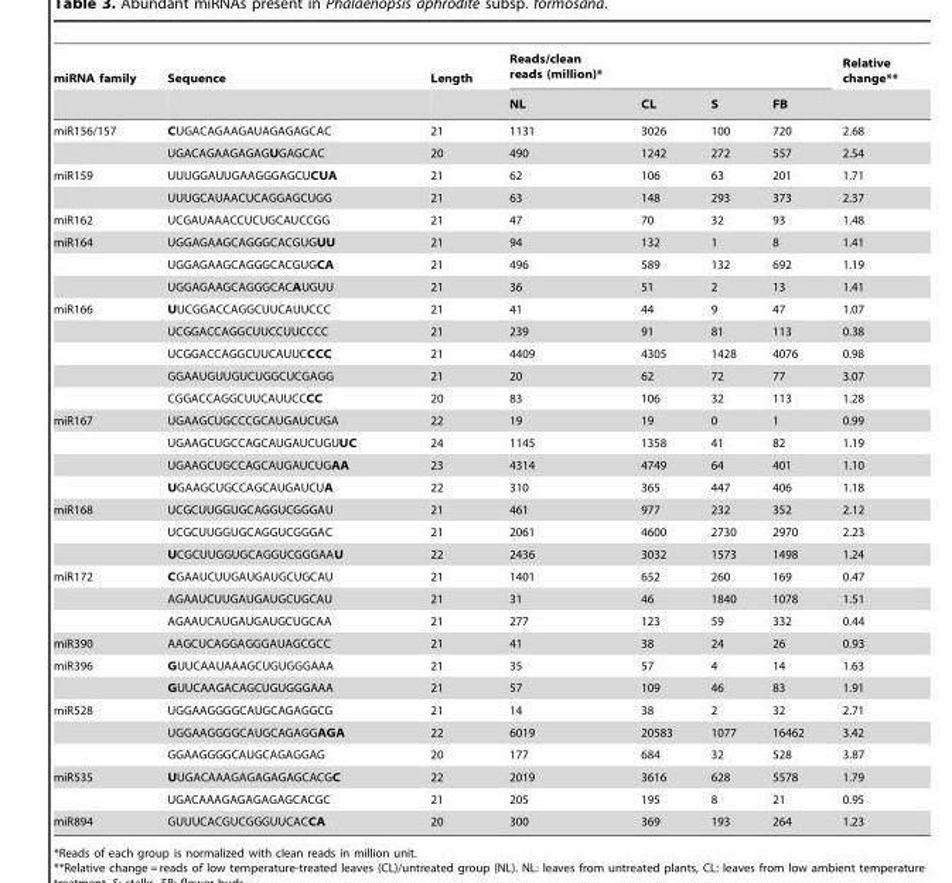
<table><thead><tr><td rowspan="2">miRNA family</td><td rowspan="2">Sequence</td><td rowspan="2">Length</td><td colspan="4">Reads/clean reads (million)*</td><td rowspan="2">Relative change**</td></tr><tr><td>NL</td><td>CL</td><td>S</td><td>FB</td></tr></thead><tbody><tr><td rowspan="2">miR156/157</td><td>CUGACAGAAGAUAGAGAGCAC</td><td>21</td><td>1131</td><td>3026</td><td>100</td><td>720</td><td>2.68</td></tr><tr><td>UGACAGAAGAGAGUGAGCAC</td><td>20</td><td>490</td><td>1242</td><td>272</td><td>557</td><td>2.54</td></tr><tr><td rowspan="2">miR159</td><td>UUUGGAUUGAAGGGAGCUCUA</td><td>21</td><td>62</td><td>106</td><td>63</td><td>201</td><td>1.71</td></tr><tr><td>UUUGCAUAACUCAGGAGCUGG</td><td>21</td><td>63</td><td>148</td><td>293</td><td>373</td><td>2.37</td></tr><tr><td>miR162</td><td>UCGAUAAACCUCUGCAUCCGG</td><td>21</td><td>47</td><td>70</td><td>32</td><td>93</td><td>1.48</td></tr><tr><td rowspan="3">miR164</td><td>UGGAGAAGCAGGGCACGUGUU</td><td>21</td><td>94</td><td>132</td><td>1</td><td>8</td><td>1.41</td></tr><tr><td>UGGAGAAGCAGGGCACGUGCA</td><td>21</td><td>496</td><td>589</td><td>132</td><td>692</td><td>1.19</td></tr><tr><td>UGGAGAAGCAGGGCACAUGUU</td><td>21</td><td>36</td><td>51</td><td>2</td><td>13</td><td>1.41</td></tr><tr><td rowspan="5">miR166</td><td>UUCGGACCAGGCUUCAUUCCC</td><td>21</td><td>41</td><td>44</td><td>9</td><td>47</td><td>1.07</td></tr><tr><td>UCGGACCAGGCUUCCUUCCCC</td><td>21</td><td>239</td><td>91</td><td>81</td><td>113</td><td>0.38</td></tr><tr><td>UCGGACCAGGCUUCAUUCCCC</td><td>21</td><td>4409</td><td>4305</td><td>1428</td><td>4076</td><td>0.98</td></tr><tr><td>GGAAUGUUGUCUGGCUCGAGG</td><td>21</td><td>20</td><td>62</td><td>72</td><td>77</td><td>3.07</td></tr><tr><td>CGGACCAGGCUUCAUUCCCC</td><td>20</td><td>83</td><td>106</td><td>32</td><td>113</td><td>1.28</td></tr><tr><td rowspan="4">miR167</td><td>UGAAGCUGCCCGCAUGAUCUGA</td><td>22</td><td>19</td><td>19</td><td>0</td><td>1</td><td>0.99</td></tr><tr><td>UGAAGCUGCCAGCAUGAUCUGUUC</td><td>24</td><td>1145</td><td>1358</td><td>41</td><td>82</td><td>1.19</td></tr><tr><td>UGAAGCUGCCAGCAUGAUCUGAA</td><td>23</td><td>4314</td><td>4749</td><td>64</td><td>401</td><td>1.10</td></tr><tr><td>UGAAGCUGCCAGCAUGAUCUA</td><td>22</td><td>310</td><td>365</td><td>447</td><td>406</td><td>1.18</td></tr><tr><td rowspan="3">miR168</td><td>UCGCUUGGUGCAGGUCGGGAU</td><td>21</td><td>461</td><td>977</td><td>232</td><td>352</td><td>2.12</td></tr><tr><td>UCGCUUGGUGCAGGUCGGGAC</td><td>21</td><td>2061</td><td>4600</td><td>2730</td><td>2970</td><td>2.23</td></tr><tr><td>UCGCUUGGUGCAGGUCGGGAAU</td><td>22</td><td>2436</td><td>3032</td><td>1573</td><td>1498</td><td>1.24</td></tr><tr><td rowspan="3">miR172</td><td>CGAAUCUUGAUGAUGCUGCAU</td><td>21</td><td>1401</td><td>652</td><td>260</td><td>169</td><td>0.47</td></tr><tr><td>AGAAUCUUGAUGAUGCUGCAU</td><td>21</td><td>31</td><td>46</td><td>1840</td><td>1078</td><td>1.51</td></tr><tr><td>AGAAUCAUGAUGAUGCUGCAA</td><td>21</td><td>277</td><td>123</td><td>59</td><td>332</td><td>0.44</td></tr><tr><td>miR390</td><td>AAGCUCAGGAGGGAUAGCGCC</td><td>21</td><td>41</td><td>38</td><td>24</td><td>26</td><td>0.93</td></tr><tr><td rowspan="2">miR396</td><td>GUUCAAUAAAGCUGUGGGAAA</td><td>21</td><td>35</td><td>57</td><td>4</td><td>14</td><td>1.63</td></tr><tr><td>GUUCAAGACAGCUGUGGGAAA</td><td>21</td><td>57</td><td>109</td><td>46</td><td>83</td><td>1.91</td></tr><tr><td rowspan="3">miR528</td><td>UGGAAGGGGCAUGCAGAGGCG</td><td>21</td><td>14</td><td>38</td><td>2</td><td>32</td><td>2.71</td></tr><tr><td>UGGAAGGGGCAUGCAGAGGAGA</td><td>22</td><td>6019</td><td>20583</td><td>1077</td><td>16462</td><td>3.42</td></tr><tr><td>GGAAGGGGCAUGCAGAGGAG</td><td>20</td><td>177</td><td>684</td><td>32</td><td>528</td><td>3.87</td></tr><tr><td rowspan="2">miR535</td><td>UUGACAAAGAGAGAGAGCACGC</td><td>22</td><td>2019</td><td>3616</td><td>628</td><td>5578</td><td>1.79</td></tr><tr><td>UGACAAAGAGAGAGAGCACGC</td><td>21</td><td>205</td><td>195</td><td>8</td><td>21</td><td>0.95</td></tr><tr><td>miR894</td><td>GUUUCACGUCGGGUUCACCA</td><td>20</td><td>300</td><td>369</td><td>193</td><td>264</td><td>1.23</td></tr></tbody></table>